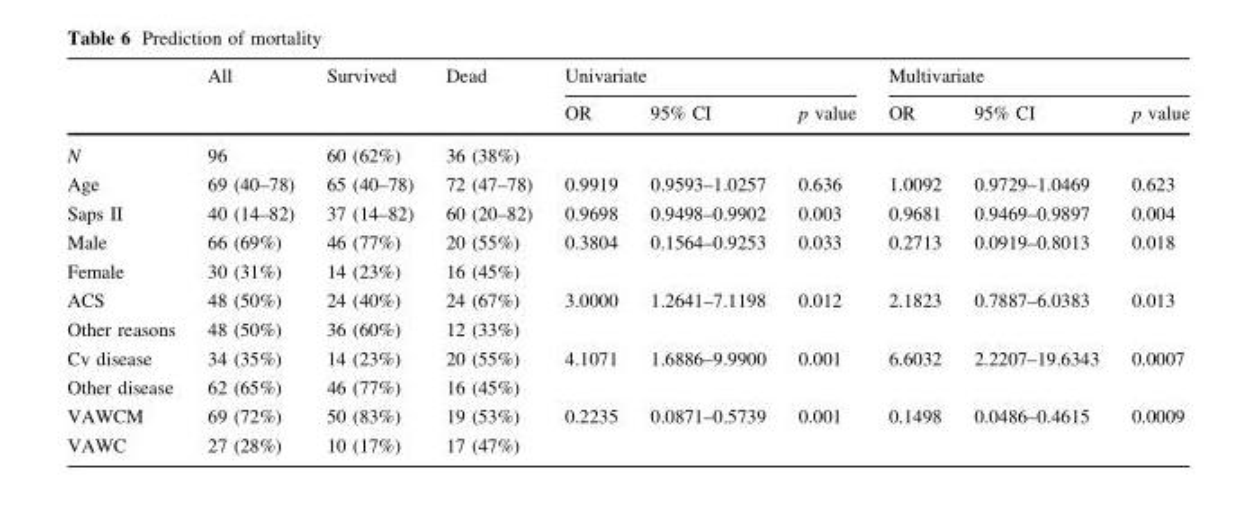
<table><thead><tr><td rowspan="2"></td><td rowspan="2">All</td><td rowspan="2">Survived</td><td rowspan="2">Dead</td><td colspan="3">Univariate</td><td colspan="3">Multivariate</td></tr><tr><td>OR</td><td>95% CI</td><td>p value</td><td>OR</td><td>95% CI</td><td>p value</td></tr></thead><tbody><tr><td>N</td><td>96</td><td>60 (62%)</td><td>36 (38%)</td><td></td><td></td><td></td><td></td><td></td><td></td></tr><tr><td>Age</td><td>69 (40–78)</td><td>65 (40–78)</td><td>72 (47–78)</td><td>0.9919</td><td>0.9593–1.0257</td><td>0.636</td><td>1.0092</td><td>0.9729–1.0469</td><td>0.623</td></tr><tr><td>Saps II</td><td>40 (14–82)</td><td>37 (14–82)</td><td>60 (20–82)</td><td>0.9698</td><td>0.9498–0.9902</td><td>0.003</td><td>0.9681</td><td>0.9469–0.9897</td><td>0.004</td></tr><tr><td>Male</td><td>66 (69%)</td><td>46 (77%)</td><td>20 (55%)</td><td>0.3804</td><td>0.1564–0.9253</td><td>0.033</td><td>0.2713</td><td>0.0919–0.8013</td><td>0.018</td></tr><tr><td>Female</td><td>30 (31%)</td><td>14 (23%)</td><td>16 (45%)</td><td></td><td></td><td></td><td></td><td></td><td></td></tr><tr><td>ACS</td><td>48 (50%)</td><td>24 (40%)</td><td>24 (67%)</td><td>3.0000</td><td>1.2641–7.1198</td><td>0.012</td><td>2.1823</td><td>0.7887–6.0383</td><td>0.013</td></tr><tr><td>Other reasons</td><td>48 (50%)</td><td>36 (60%)</td><td>12 (33%)</td><td></td><td></td><td></td><td></td><td></td><td></td></tr><tr><td>Cv disease</td><td>34 (35%)</td><td>14 (23%)</td><td>20 (55%)</td><td>4.1071</td><td>1.6886–9.9900</td><td>0.001</td><td>6.6032</td><td>2.2207–19.6343</td><td>0.0007</td></tr><tr><td>Other disease</td><td>62 (65%)</td><td>46 (77%)</td><td>16 (45%)</td><td></td><td></td><td></td><td></td><td></td><td></td></tr><tr><td>VAWCM</td><td>69 (72%)</td><td>50 (83%)</td><td>19 (53%)</td><td>0.2235</td><td>0.0871–0.5739</td><td>0.001</td><td>0.1498</td><td>0.0486–0.4615</td><td>0.0009</td></tr><tr><td>VAWC</td><td>27 (28%)</td><td>10 (17%)</td><td>17 (47%)</td><td></td><td></td><td></td><td></td><td></td><td></td></tr></tbody></table>